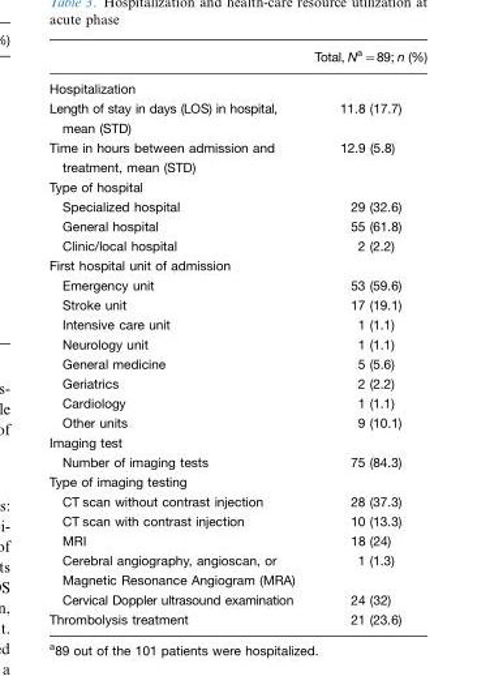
<table><thead><tr><td></td><td>Total, Na=89; n (%)</td></tr></thead><tbody><tr><td colspan="2">Hospitalization</td></tr><tr><td>Length of stay in days (LOS) in hospital, mean (STD)</td><td>11.8 (17.7)</td></tr><tr><td>Time in hours between admission and treatment, mean (STD)</td><td>12.9 (5.8)</td></tr><tr><td colspan="2">Type of hospital</td></tr><tr><td>Specialized hospital</td><td>29 (32.6)</td></tr><tr><td>General hospital</td><td>55 (61.8)</td></tr><tr><td>Clinic/local hospital</td><td>2 (2.2)</td></tr><tr><td colspan="2">First hospital unit of admission</td></tr><tr><td>Emergency unit</td><td>53 (59.6)</td></tr><tr><td>Stroke unit</td><td>17 (19.1)</td></tr><tr><td>Intensive care unit</td><td>1 (1.1)</td></tr><tr><td>Neurology unit</td><td>1 (1.1)</td></tr><tr><td>General medicine</td><td>5 (5.6)</td></tr><tr><td>Geriatrics</td><td>2 (2.2)</td></tr><tr><td>Cardiology</td><td>1 (1.1)</td></tr><tr><td>Other units</td><td>9 (10.1)</td></tr><tr><td colspan="2">Imaging test</td></tr><tr><td>Number of imaging tests</td><td>75 (84.3)</td></tr><tr><td colspan="2">Type of imaging testing</td></tr><tr><td>CT scan without contrast injection</td><td>28 (37.3)</td></tr><tr><td>CT scan with contrast injection</td><td>10 (13.3)</td></tr><tr><td>MRI</td><td>18 (24)</td></tr><tr><td>Cerebral angiography, angioscan, or Magnetic Resonance Angiogram (MRA)</td><td>1 (1.3)</td></tr><tr><td>Cervical Doppler ultrasound examination</td><td>24 (32)</td></tr><tr><td>Thrombolysis treatment</td><td>21 (23.6)</td></tr></tbody></table>